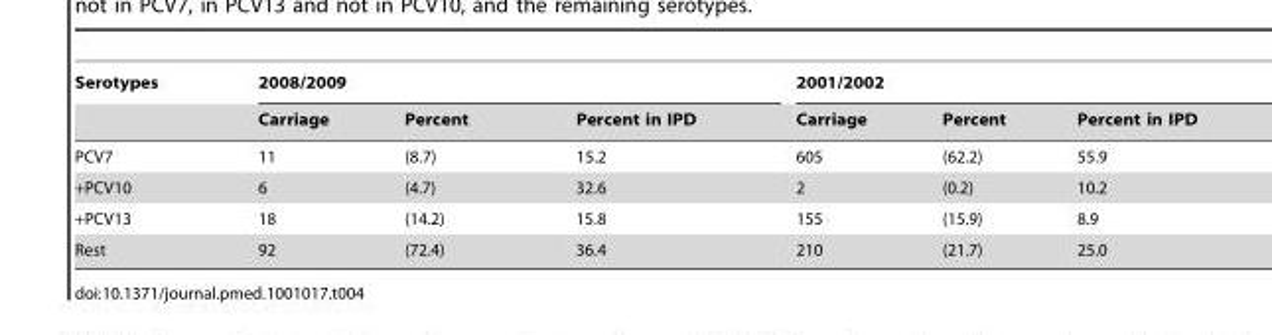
<table><thead><tr><td rowspan="2">Serotypes</td><td colspan="3">2008/2009</td><td colspan="3">2001/2002</td></tr><tr><td>Carriage</td><td>Percent</td><td>Percent in IPD</td><td>Carriage</td><td>Percent</td><td>Percent in IPD</td></tr></thead><tbody><tr><td>PCV7</td><td>11</td><td>(8.7)</td><td>15.2</td><td>605</td><td>(62.2)</td><td>55.9</td></tr><tr><td>+PCV10</td><td>6</td><td>(4.7)</td><td>32.6</td><td>2</td><td>(0.2)</td><td>10.2</td></tr><tr><td>+PCV13</td><td>18</td><td>(14.2)</td><td>15.8</td><td>155</td><td>(15.9)</td><td>8.9</td></tr><tr><td>Rest</td><td>92</td><td>(72.4)</td><td>36.4</td><td>210</td><td>(21.7)</td><td>25.0</td></tr></tbody></table>